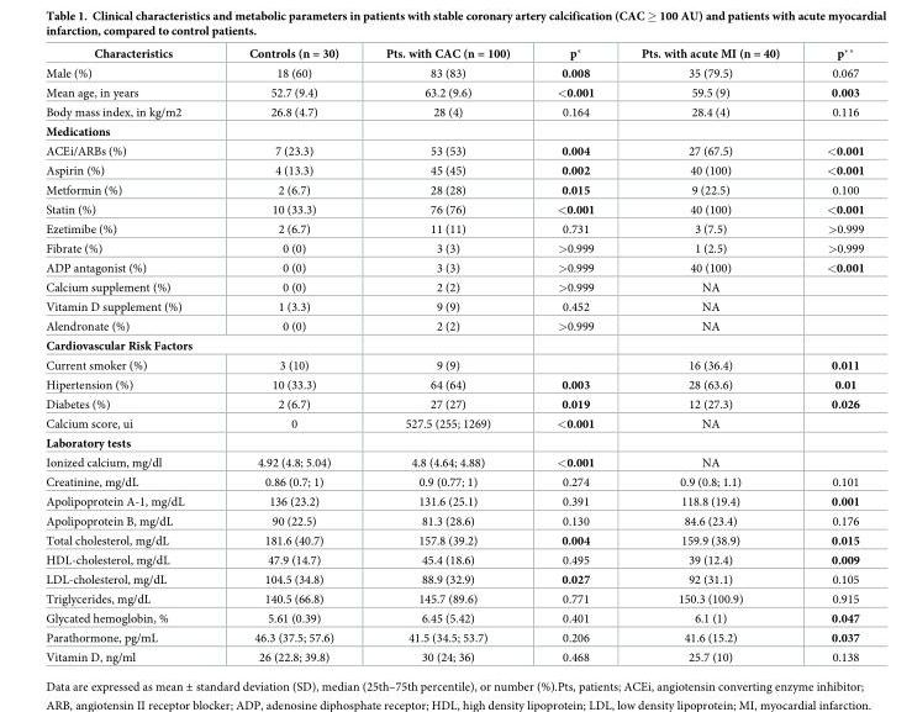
<table><thead><tr><td>Characteristics</td><td>Controls (n = 30)</td><td>Pts. with CAC (n = 100)</td><td>p*</td><td>Pts. with acute MI (n = 40)</td><td>p**</td></tr></thead><tbody><tr><td>Male (%)</td><td>18 (60)</td><td>83 (83)</td><td>0.008</td><td>35 (79.5)</td><td>0.067</td></tr><tr><td>Mean age, in years</td><td>52.7 (9.4)</td><td>63.2 (9.6)</td><td>&lt;0.001</td><td>59.5 (9)</td><td>0.003</td></tr><tr><td>Body mass index, in kg/m2</td><td>26.8 (4.7)</td><td>28 (4)</td><td>0.164</td><td>28.4 (4)</td><td>0.116</td></tr><tr><td colspan="6">Medications</td></tr><tr><td>ACEi/ARBs (%)</td><td>7 (23.3)</td><td>53 (53)</td><td>0.004</td><td>27 (67.5)</td><td>&lt;0.001</td></tr><tr><td>Aspirin (%)</td><td>4 (13.3)</td><td>45 (45)</td><td>0.002</td><td>40 (100)</td><td>&lt;0.001</td></tr><tr><td>Metformin (%)</td><td>2 (6.7)</td><td>28 (28)</td><td>0.015</td><td>9 (22.5)</td><td>0.100</td></tr><tr><td>Statin (%)</td><td>10 (33.3)</td><td>76 (76)</td><td>&lt;0.001</td><td>40 (100)</td><td>&lt;0.001</td></tr><tr><td>Ezetimibe (%)</td><td>2 (6.7)</td><td>11 (11)</td><td>0.731</td><td>3 (7.5)</td><td>&gt;0.999</td></tr><tr><td>Fibrate (%)</td><td>0 (0)</td><td>3 (3)</td><td>&gt;0.999</td><td>1 (2.5)</td><td>&gt;0.999</td></tr><tr><td>ADP antagonist (%)</td><td>0 (0)</td><td>3 (3)</td><td>&gt;0.999</td><td>40 (100)</td><td>&lt;0.001</td></tr><tr><td>Calcium supplement (%)</td><td>0 (0)</td><td>2 (2)</td><td>&gt;0.999</td><td>NA</td><td></td></tr><tr><td>Vitamin D supplement (%)</td><td>1 (3.3)</td><td>9 (9)</td><td>0.452</td><td>NA</td><td></td></tr><tr><td>Alendronate (%)</td><td>0 (0)</td><td>2 (2)</td><td>&gt;0.999</td><td>NA</td><td></td></tr><tr><td colspan="6">Cardiovascular Risk Factors</td></tr><tr><td>Current smoker (%)</td><td>3 (10)</td><td>9 (9)</td><td></td><td>16 (36.4)</td><td>0.011</td></tr><tr><td>Hipertension (%)</td><td>10 (33.3)</td><td>64 (64)</td><td>0.003</td><td>28 (63.6)</td><td>0.01</td></tr><tr><td>Diabetes (%)</td><td>2 (6.7)</td><td>27 (27)</td><td>0.019</td><td>12 (27.3)</td><td>0.026</td></tr><tr><td>Calcium score, ui</td><td>0</td><td>527.5 (255; 1269)</td><td>&lt;0.001</td><td>NA</td><td></td></tr><tr><td colspan="6">Laboratory tests</td></tr><tr><td>Ionized calcium, mg/dl</td><td>4.92 (4.8; 5.04)</td><td>4.8 (4.64; 4.88)</td><td>&lt;0.001</td><td>NA</td><td></td></tr><tr><td>Creatinine, mg/dL</td><td>0.86 (0.7; 1)</td><td>0.9 (0.77; 1)</td><td>0.274</td><td>0.9 (0.8; 1.1)</td><td>0.101</td></tr><tr><td>Apolipoprotein A-1, mg/dL</td><td>136 (23.2)</td><td>131.6 (25.1)</td><td>0.391</td><td>118.8 (19.4)</td><td>0.001</td></tr><tr><td>Apolipoprotein B, mg/dL</td><td>90 (22.5)</td><td>81.3 (28.6)</td><td>0.130</td><td>84.6 (23.4)</td><td>0.176</td></tr><tr><td>Total cholesterol, mg/dL</td><td>181.6 (40.7)</td><td>157.8 (39.2)</td><td>0.004</td><td>159.9 (38.9)</td><td>0.015</td></tr><tr><td>HDL-cholesterol, mg/dL</td><td>47.9 (14.7)</td><td>45.4 (18.6)</td><td>0.495</td><td>39 (12.4)</td><td>0.009</td></tr><tr><td>LDL-cholesterol, mg/dL</td><td>104.5 (34.8)</td><td>88.9 (32.9)</td><td>0.027</td><td>92 (31.1)</td><td>0.105</td></tr><tr><td>Triglycerides, mg/dL</td><td>140.5 (66.8)</td><td>145.7 (89.6)</td><td>0.771</td><td>150.3 (100.9)</td><td>0.915</td></tr><tr><td>Glycated hemoglobin, %</td><td>5.61 (0.39)</td><td>6.45 (5.42)</td><td>0.401</td><td>6.1 (1)</td><td>0.047</td></tr><tr><td>Parathormone, pg/mL</td><td>46.3 (37.5; 57.6)</td><td>41.5 (34.5; 53.7)</td><td>0.206</td><td>41.6 (15.2)</td><td>0.037</td></tr><tr><td>Vitamin D, ng/ml</td><td>26 (22.8; 39.8)</td><td>30 (24; 36)</td><td>0.468</td><td>25.7 (10)</td><td>0.138</td></tr></tbody></table>